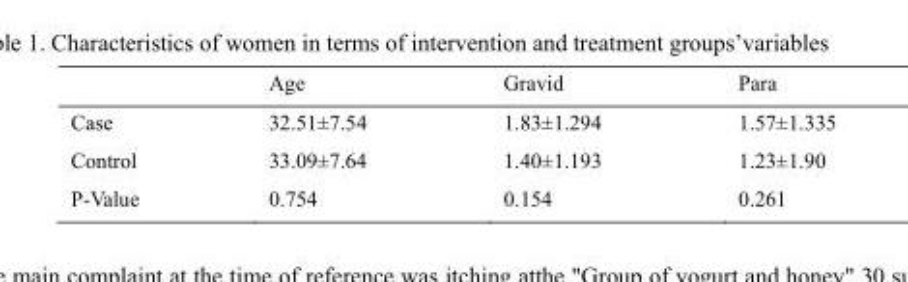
<table><thead><tr><td></td><td>Age</td><td>Gravid</td><td>Para</td></tr></thead><tbody><tr><td>Case</td><td>32.51±7.54</td><td>1.83±1.294</td><td>1.57±1.335</td></tr><tr><td>Control</td><td>33.09±7.64</td><td>1.40±1.193</td><td>1.23±1.90</td></tr><tr><td>P-Value</td><td>0.754</td><td>0.154</td><td>0.261</td></tr></tbody></table>